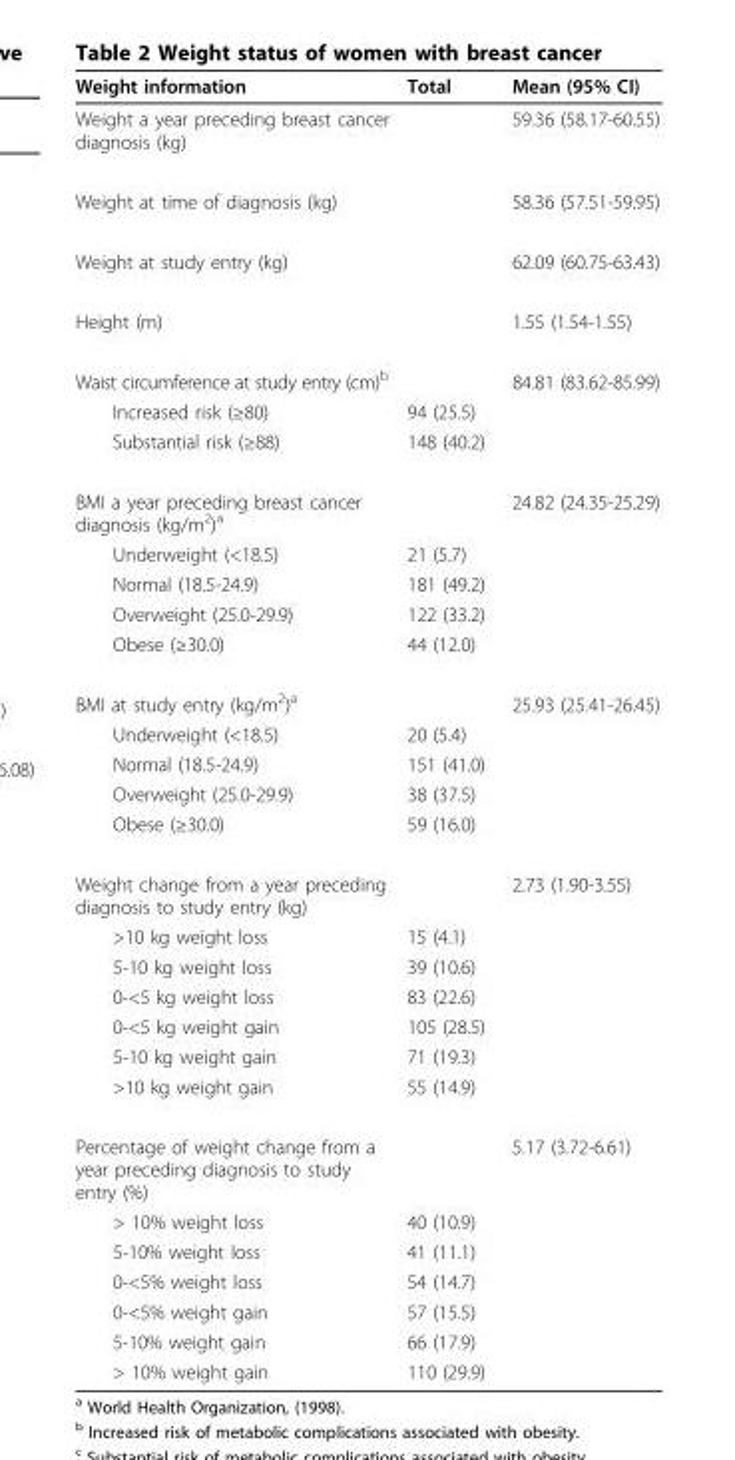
<table><thead><tr><td>Weight information</td><td>Total</td><td>Mean (95% CI)</td></tr></thead><tbody><tr><td>Weight a year preceding breast cancer diagnosis (kg)</td><td></td><td>59.36 (58.17-60.55)</td></tr><tr><td>Weight at time of diagnosis (kg)</td><td></td><td>58.36 (57.51-59.95)</td></tr><tr><td>Weight at study entry (kg)</td><td></td><td>62.09 (60.75-63.43)</td></tr><tr><td>Height (m)</td><td></td><td>1.55 (1.54-1.55)</td></tr><tr><td>Waist circumference at study entry (cm)<sup>b</sup></td><td></td><td>84.81 (83.62-85.99)</td></tr><tr><td>Increased risk (≥80)</td><td>94 (25.5)</td><td></td></tr><tr><td>Substantial risk (≥88)</td><td>148 (40.2)</td><td></td></tr><tr><td>BMI a year preceding breast cancer diagnosis (kg/m<sup>2</sup>)<sup>a</sup></td><td></td><td>24.82 (24.35-25.29)</td></tr><tr><td>Underweight (&lt;18.5)</td><td>21 (5.7)</td><td></td></tr><tr><td>Normal (18.5-24.9)</td><td>181 (49.2)</td><td></td></tr><tr><td>Overweight (25.0-29.9)</td><td>122 (33.2)</td><td></td></tr><tr><td>Obese (≥30.0)</td><td>44 (12.0)</td><td></td></tr><tr><td>BMI at study entry (kg/m<sup>2</sup>)<sup>a</sup></td><td></td><td>25.93 (25.41-26.45)</td></tr><tr><td>Underweight (&lt;18.5)</td><td>20 (5.4)</td><td></td></tr><tr><td>Normal (18.5-24.9)</td><td>151 (41.0)</td><td></td></tr><tr><td>Overweight (25.0-29.9)</td><td>38 (37.5)</td><td></td></tr><tr><td>Obese (≥30.0)</td><td>59 (16.0)</td><td></td></tr><tr><td>Weight change from a year preceding diagnosis to study entry (kg)</td><td></td><td>2.73 (1.90-3.55)</td></tr><tr><td>&gt;10 kg weight loss</td><td>15 (4.1)</td><td></td></tr><tr><td>5-10 kg weight loss</td><td>39 (10.6)</td><td></td></tr><tr><td>0-&lt;5 kg weight loss</td><td>83 (22.6)</td><td></td></tr><tr><td>0-&lt;5 kg weight gain</td><td>105 (28.5)</td><td></td></tr><tr><td>5-10 kg weight gain</td><td>71 (19.3)</td><td></td></tr><tr><td>&gt;10 kg weight gain</td><td>55 (14.9)</td><td></td></tr><tr><td>Percentage of weight change from a year preceding diagnosis to study entry (%)</td><td></td><td>5.17 (3.72-6.61)</td></tr><tr><td>&gt; 10% weight loss</td><td>40 (10.9)</td><td></td></tr><tr><td>5-10% weight loss</td><td>41 (11.1)</td><td></td></tr><tr><td>0-&lt;5% weight loss</td><td>54 (14.7)</td><td></td></tr><tr><td>0-&lt;5% weight gain</td><td>57 (15.5)</td><td></td></tr><tr><td>5-10% weight gain</td><td>66 (17.9)</td><td></td></tr><tr><td>&gt; 10% weight gain</td><td>110 (29.9)</td><td></td></tr></tbody></table>